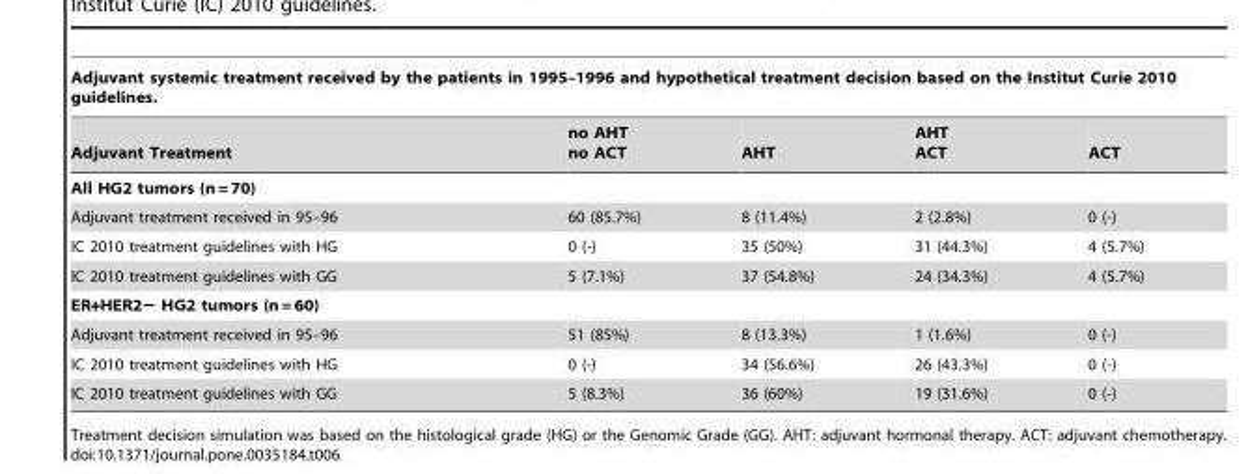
<table><thead><tr><td colspan="5">Adjuvant systemic treatment received by the patients in 1995–1996 and hypothetical treatment decision based on the Institut Curie 2010 guidelines.</td></tr><tr><td>Adjuvant Treatment</td><td>no AHT no ACT</td><td>AHT</td><td>AHT ACT</td><td>ACT</td></tr></thead><tbody><tr><td colspan="5">All HG2 tumors (n = 70)</td></tr><tr><td>Adjuvant treatment received in 95–96</td><td>60 (85.7%)</td><td>8 (11.4%)</td><td>2 (2.8%)</td><td>0 (-)</td></tr><tr><td>IC 2010 treatment guidelines with HG</td><td>0 (-)</td><td>35 (50%)</td><td>31 (44.3%)</td><td>4 (5.7%)</td></tr><tr><td>IC 2010 treatment guidelines with GG</td><td>5 (7.1%)</td><td>37 (54.8%)</td><td>24 (34.3%)</td><td>4 (5.7%)</td></tr><tr><td colspan="5">ER+HER2− HG2 tumors (n = 60)</td></tr><tr><td>Adjuvant treatment received in 95–96</td><td>51 (85%)</td><td>8 (13.3%)</td><td>1 (1.6%)</td><td>0 (-)</td></tr><tr><td>IC 2010 treatment guidelines with HG</td><td>0 (-)</td><td>34 (56.6%)</td><td>26 (43.3%)</td><td>0 (-)</td></tr><tr><td>IC 2010 treatment guidelines with GG</td><td>5 (8.3%)</td><td>36 (60%)</td><td>19 (31.6%)</td><td>0 (-)</td></tr></tbody></table>